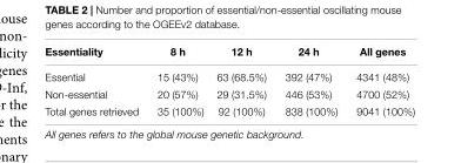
<table><thead><tr><td>Essentiality</td><td>8 h</td><td>12 h</td><td>24 h</td><td>All genes</td></tr></thead><tbody><tr><td>Essential</td><td>15 (43%)</td><td>63 (68.5%)</td><td>392 (47%)</td><td>4341 (48%)</td></tr><tr><td>Non-essential</td><td>20 (57%)</td><td>29 (31.5%)</td><td>446 (53%)</td><td>4700 (52%)</td></tr><tr><td>Total genes retrieved</td><td>35 (100%)</td><td>92 (100%)</td><td>838 (100%)</td><td>9041 (100%)</td></tr></tbody></table>